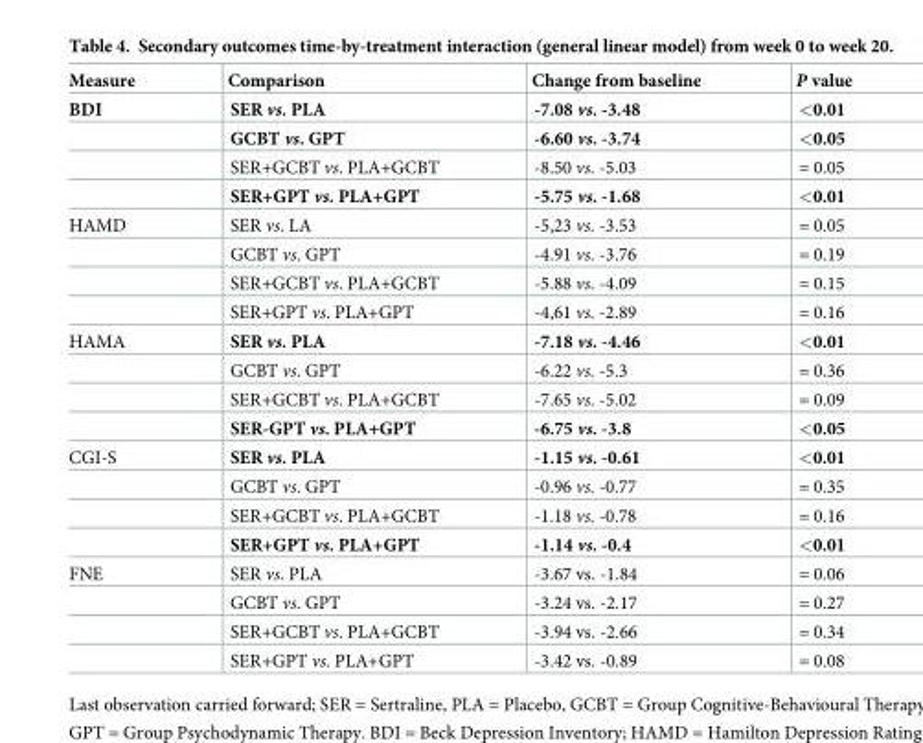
<table><thead><tr><td>Measure</td><td>Comparison</td><td>Change from baseline</td><td>P value</td></tr></thead><tbody><tr><td rowspan="4">BDI</td><td>SER vs. PLA</td><td>-7.08 vs. -3.48</td><td>&lt;0.01</td></tr><tr><td>GCBT vs. GPT</td><td>-6.60 vs. -3.74</td><td>&lt;0.05</td></tr><tr><td>SER+GCBT vs. PLA+GCBT</td><td>-8.50 vs. -5.03</td><td>= 0.05</td></tr><tr><td>SER+GPT vs. PLA+GPT</td><td>-5.75 vs. -1.68</td><td>&lt;0.01</td></tr><tr><td rowspan="4">HAMD</td><td>SER vs. LA</td><td>-5,23 vs. -3.53</td><td>= 0.05</td></tr><tr><td>GCBT vs. GPT</td><td>-4.91 vs. -3.76</td><td>= 0.19</td></tr><tr><td>SER+GCBT vs. PLA+GCBT</td><td>-5.88 vs. -4.09</td><td>= 0.15</td></tr><tr><td>SER+GPT vs. PLA+GPT</td><td>-4,61 vs. -2.89</td><td>= 0.16</td></tr><tr><td rowspan="4">HAMA</td><td>SER vs. PLA</td><td>-7.18 vs. -4.46</td><td>&lt;0.01</td></tr><tr><td>GCBT vs. GPT</td><td>-6.22 vs. -5.3</td><td>= 0.36</td></tr><tr><td>SER+GCBT vs. PLA+GCBT</td><td>-7.65 vs. -5.02</td><td>= 0.09</td></tr><tr><td>SER-GPT vs. PLA+GPT</td><td>-6.75 vs. -3.8</td><td>&lt;0.05</td></tr><tr><td rowspan="4">CGI-S</td><td>SER vs. PLA</td><td>-1.15 vs. -0.61</td><td>&lt;0.01</td></tr><tr><td>GCBT vs. GPT</td><td>-0.96 vs. -0.77</td><td>= 0.35</td></tr><tr><td>SER+GCBT vs. PLA+GCBT</td><td>-1.18 vs. -0.78</td><td>= 0.16</td></tr><tr><td>SER+GPT vs. PLA+GPT</td><td>-1.14 vs. -0.4</td><td>&lt;0.01</td></tr><tr><td rowspan="4">FNE</td><td>SER vs. PLA</td><td>-3.67 vs. -1.84</td><td>= 0.06</td></tr><tr><td>GCBT vs. GPT</td><td>-3.24 vs. -2.17</td><td>= 0.27</td></tr><tr><td>SER+GCBT vs. PLA+GCBT</td><td>-3.94 vs. -2.66</td><td>= 0.34</td></tr><tr><td>SER+GPT vs. PLA+GPT</td><td>-3.42 vs. -0.89</td><td>= 0.08</td></tr></tbody></table>